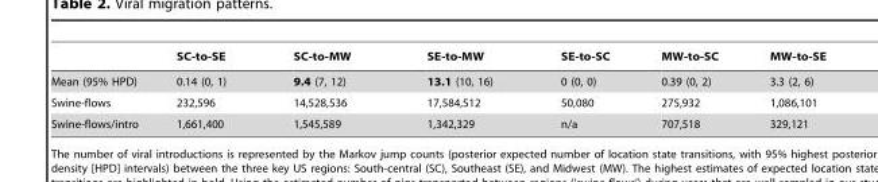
<table><thead><tr><td></td><td>SC-to-SE</td><td>SC-to-MW</td><td>SE-to-MW</td><td>SE-to-SC</td><td>MW-to-SC</td><td>MW-to-SE</td></tr></thead><tbody><tr><td>Mean (95% HPD)</td><td>0.14 (0, 1)</td><td>9.4 (7, 12)</td><td>13.1 (10, 16)</td><td>0 (0, 0)</td><td>0.39 (0, 2)</td><td>3.3 (2, 6)</td></tr><tr><td>Swine-flows</td><td>232,596</td><td>14,528,536</td><td>17,584,512</td><td>50,080</td><td>275,932</td><td>1,086,101</td></tr><tr><td>Swine-flows/intro</td><td>1,661,400</td><td>1,545,589</td><td>1,342,329</td><td>n/a</td><td>707,518</td><td>329,121</td></tr></tbody></table>